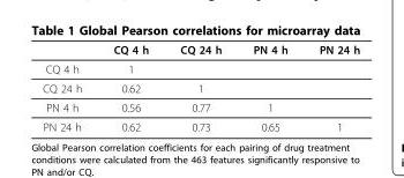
<table><thead><tr><td></td><td>CQ 4 h</td><td>CQ 24 h</td><td>PN 4 h</td><td>PN 24 h</td></tr></thead><tbody><tr><td>CQ 4 h</td><td>1</td><td></td><td></td><td></td></tr><tr><td>CQ 24 h</td><td>0.62</td><td>1</td><td></td><td></td></tr><tr><td>PN 4 h</td><td>0.56</td><td>0.77</td><td>1</td><td></td></tr><tr><td>PN 24 h</td><td>0.62</td><td>0.73</td><td>0.65</td><td>1</td></tr></tbody></table>